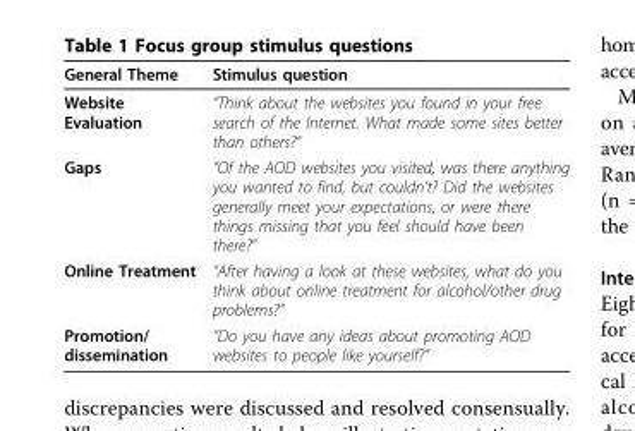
<table><thead><tr><td>General Theme</td><td>Stimulus question</td></tr></thead><tbody><tr><td>Website Evaluation</td><td>“Think about the websites you found in your free search of the Internet. What made some sites better than others?“</td></tr><tr><td>Gaps</td><td>“Of the AOD websites you visited, was there anything you wanted to find, but couldn’t? Did the websites generally meet your expectations, or were there things missing that you feel should have been there?”</td></tr><tr><td>Online Treatment</td><td>“After having a look at these websites, what do you think about online treatment for alcohol/other drug problems?”</td></tr><tr><td>Promotion/ dissemination</td><td>“Do you have any ideas about promoting AOD websites to people like yourself?”</td></tr></tbody></table>